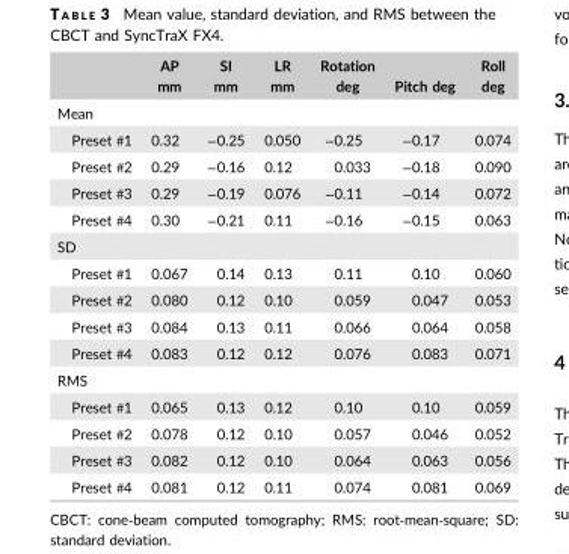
<table><thead><tr><td></td><td>AP mm</td><td>SI mm</td><td>LR mm</td><td>Rotation deg</td><td>Pitch deg</td><td>Roll deg</td></tr></thead><tbody><tr><td colspan="7">Mean</td></tr><tr><td>Preset #1</td><td>0.32</td><td>−0.25</td><td>0.050</td><td>−0.25</td><td>−0.17</td><td>0.074</td></tr><tr><td>Preset #2</td><td>0.29</td><td>−0.16</td><td>0.12</td><td>0.033</td><td>−0.18</td><td>0.090</td></tr><tr><td>Preset #3</td><td>0.29</td><td>−0.19</td><td>0.076</td><td>−0.11</td><td>−0.14</td><td>0.072</td></tr><tr><td>Preset #4</td><td>0.30</td><td>−0.21</td><td>0.11</td><td>−0.16</td><td>−0.15</td><td>0.063</td></tr><tr><td colspan="7">SD</td></tr><tr><td>Preset #1</td><td>0.067</td><td>0.14</td><td>0.13</td><td>0.11</td><td>0.10</td><td>0.060</td></tr><tr><td>Preset #2</td><td>0.080</td><td>0.12</td><td>0.10</td><td>0.059</td><td>0.047</td><td>0.053</td></tr><tr><td>Preset #3</td><td>0.084</td><td>0.13</td><td>0.11</td><td>0.066</td><td>0.064</td><td>0.058</td></tr><tr><td>Preset #4</td><td>0.083</td><td>0.12</td><td>0.12</td><td>0.076</td><td>0.083</td><td>0.071</td></tr><tr><td colspan="7">RMS</td></tr><tr><td>Preset #1</td><td>0.065</td><td>0.13</td><td>0.12</td><td>0.10</td><td>0.10</td><td>0.059</td></tr><tr><td>Preset #2</td><td>0.078</td><td>0.12</td><td>0.10</td><td>0.057</td><td>0.046</td><td>0.052</td></tr><tr><td>Preset #3</td><td>0.082</td><td>0.12</td><td>0.10</td><td>0.064</td><td>0.063</td><td>0.056</td></tr><tr><td>Preset #4</td><td>0.081</td><td>0.12</td><td>0.11</td><td>0.074</td><td>0.081</td><td>0.069</td></tr></tbody></table>